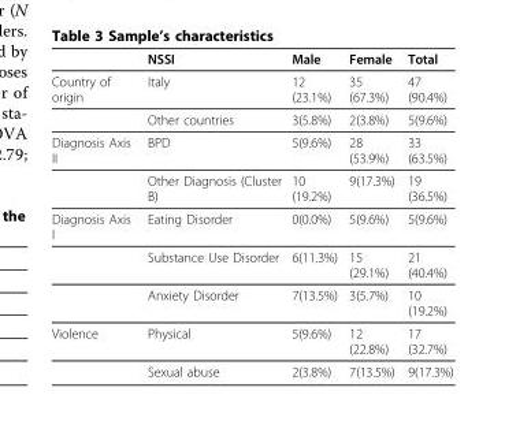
<table><thead><tr><td></td><td>NSSI</td><td>Male</td><td>Female</td><td>Total</td></tr></thead><tbody><tr><td rowspan="2">Country of origin</td><td>Italy</td><td>12 (23.1%)</td><td>35 (67.3%)</td><td>47 (90.4%)</td></tr><tr><td>Other countries</td><td>3(5.8%)</td><td>2(3.8%)</td><td>5(9.6%)</td></tr><tr><td rowspan="2">Diagnosis Axis II</td><td>BPD</td><td>5(9.6%)</td><td>28 (53.9%)</td><td>33 (63.5%)</td></tr><tr><td>Other Diagnosis (Cluster B)</td><td>10 (19.2%)</td><td>9(17.3%)</td><td>19 (36.5%)</td></tr><tr><td rowspan="3">Diagnosis Axis I</td><td>Eating Disorder</td><td>0(0.0%)</td><td>5(9.6%)</td><td>5(9.6%)</td></tr><tr><td>Substance Use Disorder</td><td>6(11.3%)</td><td>15 (29.1%)</td><td>21 (40.4%)</td></tr><tr><td>Anxiety Disorder</td><td>7(13.5%)</td><td>3(5.7%)</td><td>10 (19.2%)</td></tr><tr><td rowspan="2">Violence</td><td>Physical</td><td>5(9.6%)</td><td>12 (22.8%)</td><td>17 (32.7%)</td></tr><tr><td>Sexual abuse</td><td>2(3.8%)</td><td>7(13.5%)</td><td>9(17.3%)</td></tr></tbody></table>